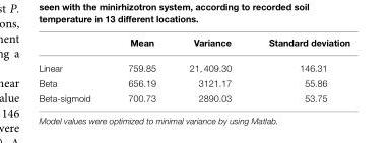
<table><thead><tr><td></td><td>Mean</td><td>Variance</td><td>Standard deviation</td></tr></thead><tbody><tr><td>Linear</td><td>759.85</td><td>21, 409.30</td><td>146.31</td></tr><tr><td>Beta</td><td>656.19</td><td>3121.17</td><td>55.86</td></tr><tr><td>Beta-sigmoid</td><td>700.73</td><td>2890.03</td><td>53.75</td></tr></tbody></table>